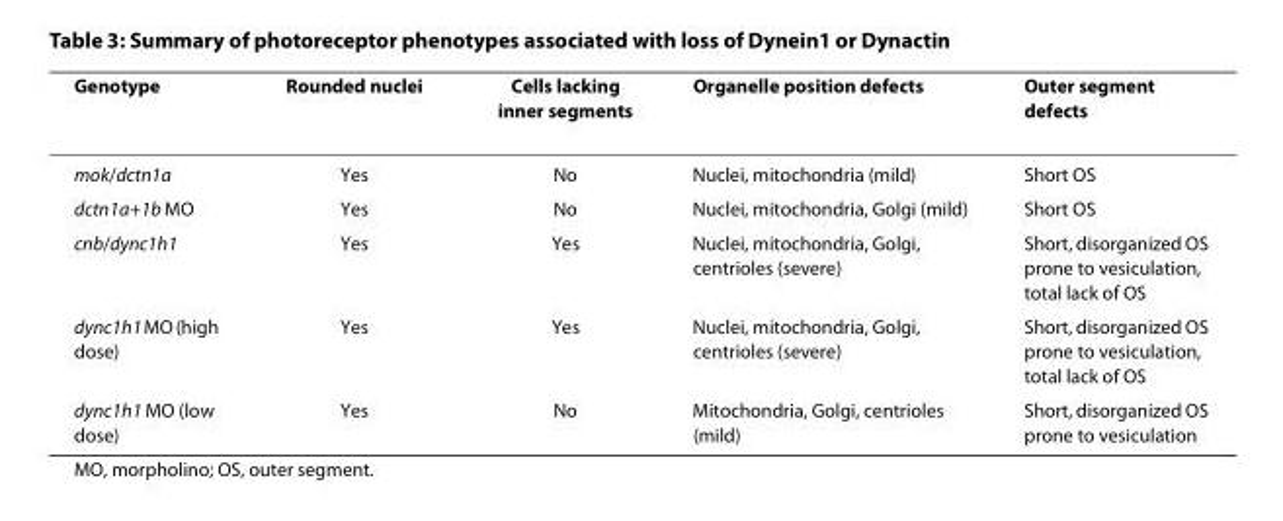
<table><thead><tr><td>Genotype</td><td>Rounded nuclei</td><td>Cells lacking inner segments</td><td>Organelle position defects</td><td>Outer segment defects</td></tr></thead><tbody><tr><td>mok/dctn1a</td><td>Yes</td><td>No</td><td>Nuclei, mitochondria (mild)</td><td>Short OS</td></tr><tr><td>dctn1a+1b MO</td><td>Yes</td><td>No</td><td>Nuclei, mitochondria, Golgi (mild)</td><td>Short OS</td></tr><tr><td>cnb/dync1h1</td><td>Yes</td><td>Yes</td><td>Nuclei, mitochondria, Golgi, centrioles (severe)</td><td>Short, disorganized OS prone to vesiculation, total lack of OS</td></tr><tr><td>dync1h1 MO (high dose)</td><td>Yes</td><td>Yes</td><td>Nuclei, mitochondria, Golgi, centrioles (severe)</td><td>Short, disorganized OS prone to vesiculation, total lack of OS</td></tr><tr><td>dync1h1 MO (low dose)</td><td>Yes</td><td>No</td><td>Mitochondria, Golgi, centrioles (mild)</td><td>Short, disorganized OS prone to vesiculation</td></tr></tbody></table>